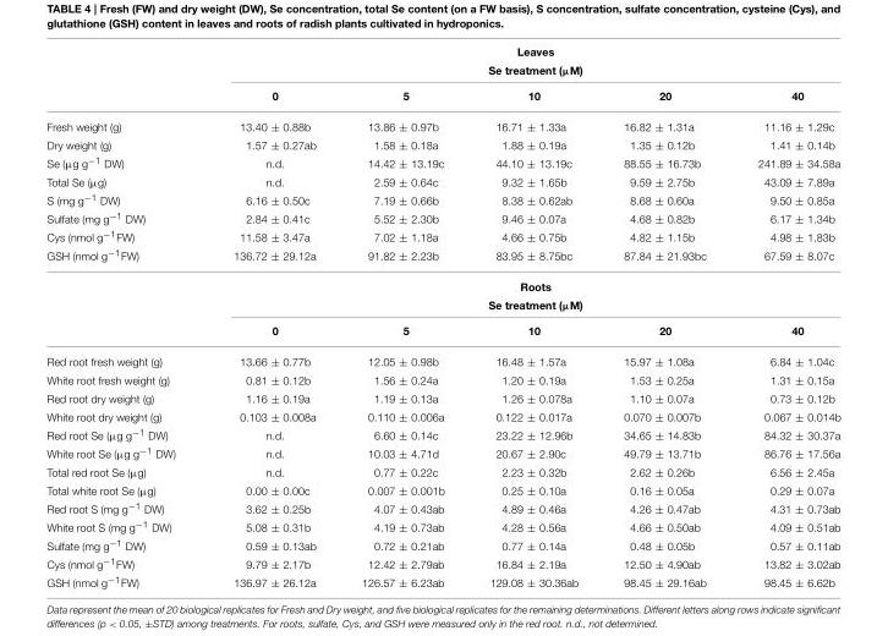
<table><thead><tr><td rowspan="3"></td><td rowspan="2" colspan="5">Leaves Se treatment (µM)</td></tr><tr></tr><tr><td>0</td><td>5</td><td>10</td><td>20</td><td>40</td></tr></thead><tbody><tr><td>Fresh weight (g)</td><td>13.40 ± 0.88b</td><td>13.86 ± 0.97b</td><td>16.71 ± 1.33a</td><td>16.82 ± 1.31a</td><td>11.16 ± 1.29c</td></tr><tr><td>Dry weight (g)</td><td>1.57 ± 0.27ab</td><td>1.58 ± 0.18a</td><td>1.88 ± 0.19a</td><td>1.35 ± 0.12b</td><td>1.41 ± 0.14b</td></tr><tr><td>Se (µg g<sup>−1</sup> DW)</td><td>n.d.</td><td>14.42 ± 13.19c</td><td>44.10 ± 13.19c</td><td>88.55 ± 16.73b</td><td>241.89 ± 34.58a</td></tr><tr><td>Total Se (µg)</td><td>n.d.</td><td>2.59 ± 0.64c</td><td>9.32 ± 1.65b</td><td>9.59 ± 2.75b</td><td>43.09 ± 7.89a</td></tr><tr><td>S (mg g<sup>−1</sup> DW)</td><td>6.16 ± 0.50c</td><td>7.19 ± 0.66b</td><td>8.38 ± 0.62ab</td><td>8.68 ± 0.60a</td><td>9.50 ± 0.85a</td></tr><tr><td>Sulfate (mg g<sup>−1</sup> DW)</td><td>2.84 ± 0.41c</td><td>5.52 ± 2.30b</td><td>9.46 ± 0.07a</td><td>4.68 ± 0.82b</td><td>6.17 ± 1.34b</td></tr><tr><td>Cys (nmol g<sup>−1</sup>FW)</td><td>11.58 ± 3.47a</td><td>7.02 ± 1.18a</td><td>4.66 ± 0.75b</td><td>4.82 ± 1.15b</td><td>4.98 ± 1.83b</td></tr><tr><td rowspan="4">GSH (nmol g<sup>−1</sup>FW)</td><td>136.72 ± 29.12a</td><td>91.82 ± 2.23b</td><td>83.95 ± 8.75bc</td><td>87.84 ± 21.93bc</td><td>67.59 ± 8.07c</td></tr><tr><td colspan="5">Roots</td></tr><tr><td colspan="5">Se treatment (µM)</td></tr><tr><td>0</td><td>5</td><td>10</td><td>20</td><td>40</td></tr><tr><td>Red root fresh weight (g)</td><td>13.66 ± 0.77b</td><td>12.05 ± 0.98b</td><td>16.48 ± 1.57a</td><td>15.97 ± 1.08a</td><td>6.84 ± 1.04c</td></tr><tr><td>White root fresh weight (g)</td><td>0.81 ± 0.12b</td><td>1.56 ± 0.24a</td><td>1.20 ± 0.19a</td><td>1.53 ± 0.25a</td><td>1.31 ± 0.15a</td></tr><tr><td>Red root dry weight (g)</td><td>1.16 ± 0.19a</td><td>1.19 ± 0.13a</td><td>1.26 ± 0.078a</td><td>1.10 ± 0.07a</td><td>0.73 ± 0.12b</td></tr><tr><td>White root dry weight (g)</td><td>0.103 ± 0.008a</td><td>0.110 ± 0.006a</td><td>0.122 ± 0.017a</td><td>0.070 ± 0.007b</td><td>0.067 ± 0.014b</td></tr><tr><td>Red root Se (µg g<sup>−1</sup> DW)</td><td>n.d.</td><td>6.60 ± 0.14c</td><td>23.22 ± 12.96b</td><td>34.65 ± 14.83b</td><td>84.32 ± 30.37a</td></tr><tr><td>White root Se (µg g<sup>−1</sup> DW)</td><td>n.d.</td><td>10.03 ± 4.71d</td><td>20.67 ± 2.90c</td><td>49.79 ± 13.71b</td><td>86.76 ± 17.56a</td></tr><tr><td>Total red root Se (µg)</td><td>n.d.</td><td>0.77 ± 0.22c</td><td>2.23 ± 0.32b</td><td>2.62 ± 0.26b</td><td>6.56 ± 2.45a</td></tr><tr><td>Total white root Se (µg)</td><td>0.00 ± 0.00c</td><td>0.007 ± 0.001b</td><td>0.25 ± 0.10a</td><td>0.16 ± 0.05a</td><td>0.29 ± 0.07a</td></tr><tr><td>Red root S (mg g<sup>−1</sup> DW)</td><td>3.62 ± 0.25b</td><td>4.07 ± 0.43ab</td><td>4.89 ± 0.46a</td><td>4.26 ± 0.47ab</td><td>4.31 ± 0.73ab</td></tr><tr><td>White root S (mg g<sup>−1</sup> DW)</td><td>5.08 ± 0.31b</td><td>4.19 ± 0.73ab</td><td>4.28 ± 0.56a</td><td>4.66 ± 0.50ab</td><td>4.09 ± 0.51ab</td></tr><tr><td>Sulfate (mg g<sup>−1</sup> DW)</td><td>0.59 ± 0.13ab</td><td>0.72 ± 0.21ab</td><td>0.77 ± 0.14a</td><td>0.48 ± 0.05b</td><td>0.57 ± 0.11ab</td></tr><tr><td>Cys (nmol g<sup>−1</sup>FW)</td><td>9.79 ± 2.17b</td><td>12.42 ± 2.79ab</td><td>16.84 ± 2.19a</td><td>12.50 ± 4.90ab</td><td>13.82 ± 3.02ab</td></tr><tr><td>GSH (nmol g<sup>−1</sup>FW)</td><td>136.97 ± 26.12a</td><td>126.57 ± 6.23ab</td><td>129.08 ± 30.36ab</td><td>98.45 ± 29.16ab</td><td>98.45 ± 6.62b</td></tr></tbody></table>